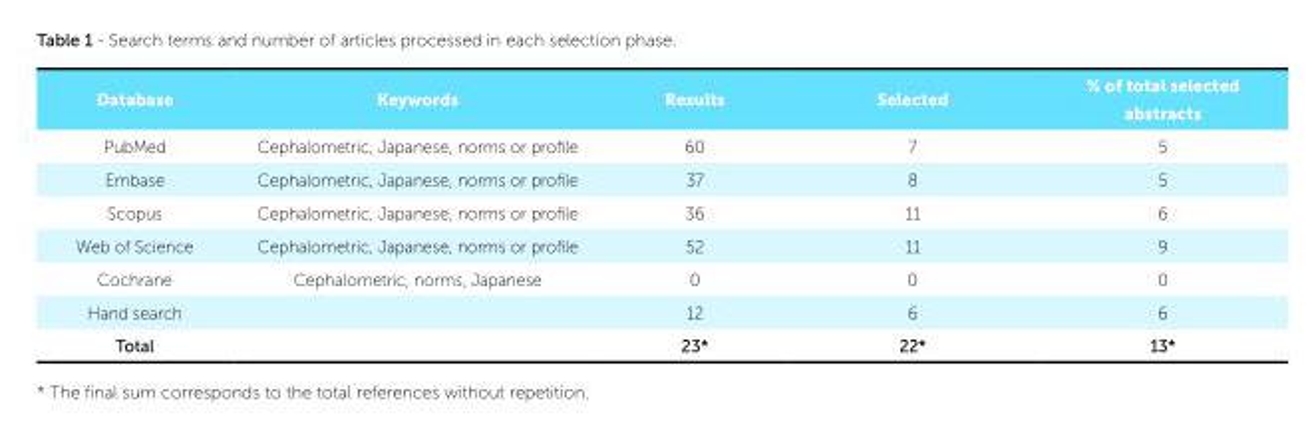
<table><thead><tr><td>Database</td><td>Keywords</td><td>Results</td><td>Selected</td><td>% of total selected abstracts</td></tr></thead><tbody><tr><td>PubMed</td><td>Cephalometric, Japanese, norms or profile</td><td>60</td><td>7</td><td>5</td></tr><tr><td>Embase</td><td>Cephalometric, Japanese, norms or profile</td><td>37</td><td>8</td><td>5</td></tr><tr><td>Scopus</td><td>Cephalometric, Japanese, norms or profile</td><td>36</td><td>11</td><td>6</td></tr><tr><td>Web of Science</td><td>Cephalometric, Japanese, norms or profile</td><td>52</td><td>11</td><td>9</td></tr><tr><td>Cochrane</td><td>Cephalometric, norms, Japanese</td><td>0</td><td>0</td><td>0</td></tr><tr><td>Hand search</td><td></td><td>12</td><td>6</td><td>6</td></tr><tr><td>Total</td><td></td><td>23*</td><td>22*</td><td>13*</td></tr></tbody></table>